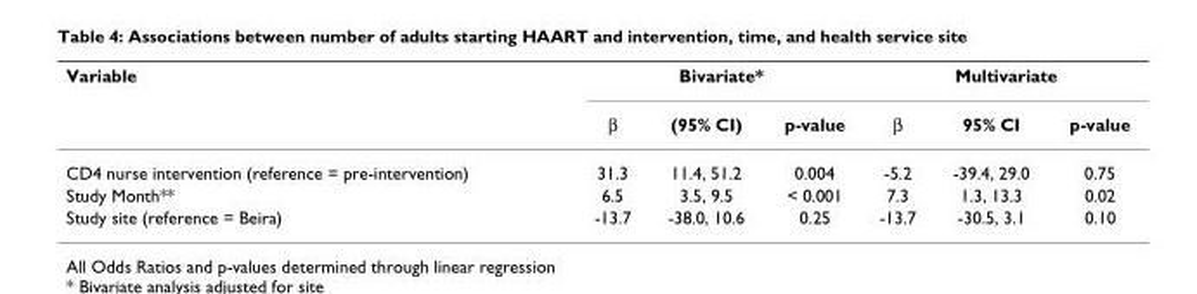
<table><thead><tr><td rowspan="2">Variable</td><td colspan="3">Bivariate*</td><td colspan="3">Multivariate</td></tr><tr><td>β</td><td>(95% CI)</td><td>p-value</td><td>β</td><td>95% CI</td><td>p-value</td></tr></thead><tbody><tr><td>CD4 nurse intervention (reference = pre-intervention)</td><td>31.3</td><td>11.4, 51.2</td><td>0.004</td><td>-5.2</td><td>-39.4, 29.0</td><td>0.75</td></tr><tr><td>Study Month**</td><td>6.5</td><td>3.5, 9.5</td><td>&lt; 0.001</td><td>7.3</td><td>1.3, 13.3</td><td>0.02</td></tr><tr><td>Study site (reference = Beira)</td><td>-13.7</td><td>-38.0, 10.6</td><td>0.25</td><td>-13.7</td><td>-30.5, 3.1</td><td>0.10</td></tr></tbody></table>